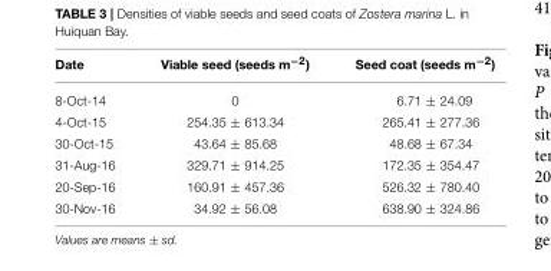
<table><thead><tr><td>Date</td><td>Viable seed (seeds m<sup>−2</sup>)</td><td>Seed coat (seeds m<sup>−2</sup>)</td></tr></thead><tbody><tr><td>8-Oct-14</td><td>0</td><td>6.71 ± 24.09</td></tr><tr><td>4-Oct-15</td><td>254.35 ± 613.34</td><td>265.41 ± 277.36</td></tr><tr><td>30-Oct-15</td><td>43.64 ± 85.68</td><td>48.68 ± 67.34</td></tr><tr><td>31-Aug-16</td><td>329.71 ± 914.25</td><td>172.35 ± 354.47</td></tr><tr><td>20-Sep-16</td><td>160.91 ± 457.36</td><td>526.32 ± 780.40</td></tr><tr><td>30-Nov-16</td><td>34.92 ± 56.08</td><td>638.90 ± 324.86</td></tr></tbody></table>